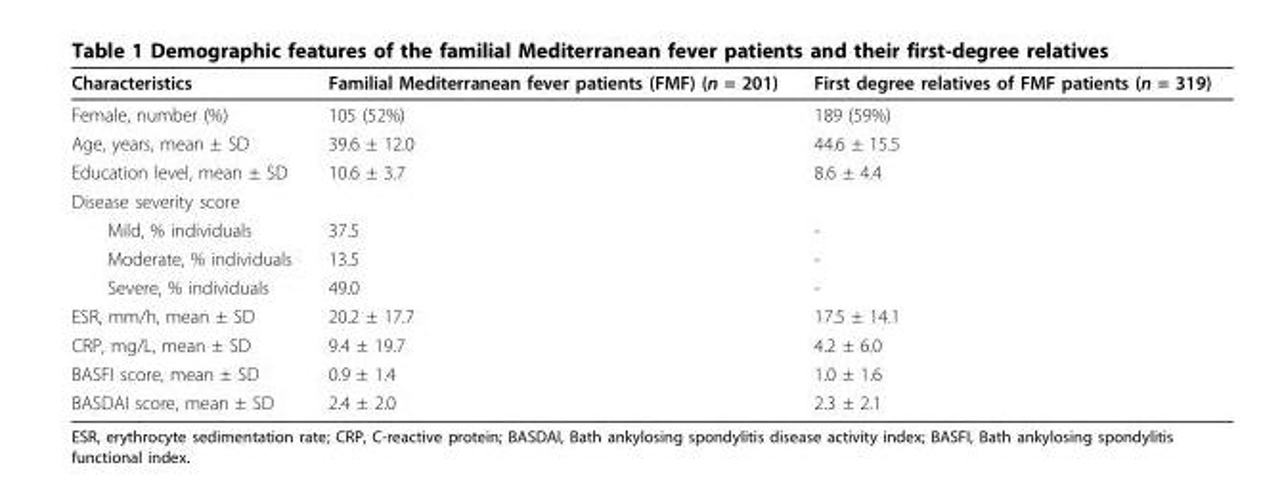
<table><thead><tr><td>Characteristics</td><td>Familial Mediterranean fever patients (FMF) (n = 201)</td><td>First degree relatives of FMF patients (n = 319)</td></tr></thead><tbody><tr><td>Female, number (%)</td><td>105 (52%)</td><td>189 (59%)</td></tr><tr><td>Age, years, mean ± SD</td><td>39.6 ± 12.0</td><td>44.6 ± 15.5</td></tr><tr><td>Education level, mean ± SD</td><td>10.6 ± 3.7</td><td>8.6 ± 4.4</td></tr><tr><td colspan="3">Disease severity score</td></tr><tr><td>Mild, % individuals</td><td>37.5</td><td>-</td></tr><tr><td>Moderate, % individuals</td><td>13.5</td><td>-</td></tr><tr><td>Severe, % individuals</td><td>49.0</td><td>-</td></tr><tr><td>ESR, mm/h, mean ± SD</td><td>20.2 ± 17.7</td><td>17.5 ± 14.1</td></tr><tr><td>CRP, mg/L, mean ± SD</td><td>9.4 ± 19.7</td><td>4.2 ± 6.0</td></tr><tr><td>BASFI score, mean ± SD</td><td>0.9 ± 1.4</td><td>1.0 ± 1.6</td></tr><tr><td>BASDAI score, mean ± SD</td><td>2.4 ± 2.0</td><td>2.3 ± 2.1</td></tr></tbody></table>